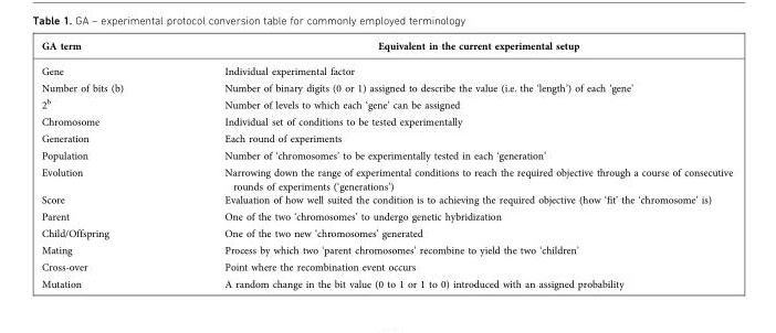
<table><thead><tr><td>GA term</td><td>Equivalent in the current experimental setup</td></tr></thead><tbody><tr><td>Gene</td><td>Individual experimental factor</td></tr><tr><td>Number of bits (b)</td><td>Number of binary digits (0 or 1) assigned to describe the value (i.e. the ‘length’) of each ‘gene’</td></tr><tr><td>2<sup>b</sup></td><td>Number of levels to which each ‘gene’ can be assigned</td></tr><tr><td>Chromosome</td><td>Individual set of conditions to be tested experimentally</td></tr><tr><td>Generation</td><td>Each round of experiments</td></tr><tr><td>Population</td><td>Number of ‘chromosomes’ to be experimentally tested in each ‘generation’</td></tr><tr><td>Evolution</td><td>Narrowing down the range of experimental conditions to reach the required objective through a course of consecutive rounds of experiments (‘generations’)</td></tr><tr><td>Score</td><td>Evaluation of how well suited the condition is to achieving the required objective (how ‘fit’ the ‘chromosome’ is)</td></tr><tr><td>Parent</td><td>One of the two ‘chromosomes’ to undergo genetic hybridization</td></tr><tr><td>Child/Offspring</td><td>One of the two new ‘chromosomes’ generated</td></tr><tr><td>Mating</td><td>Process by which two ‘parent chromosomes’ recombine to yield the two ‘children’</td></tr><tr><td>Cross-over</td><td>Point where the recombination event occurs</td></tr><tr><td>Mutation</td><td>A random change in the bit value (0 to 1 or 1 to 0) introduced with an assigned probability</td></tr></tbody></table>